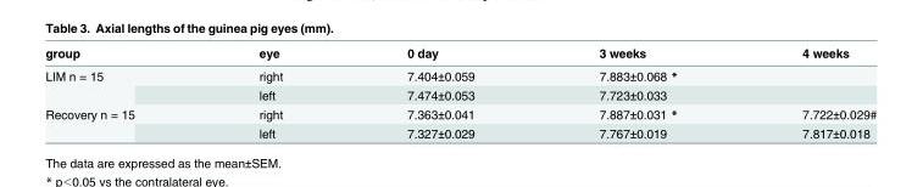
<table><thead><tr><td>group</td><td>eye</td><td>0 day</td><td>3 weeks</td><td>4 weeks</td></tr></thead><tbody><tr><td rowspan="2">LIM n = 15</td><td>right</td><td>7.404±0.059</td><td>7.883±0.068 *</td><td></td></tr><tr><td>left</td><td>7.474±0.053</td><td>7.723±0.033</td><td></td></tr><tr><td rowspan="2">Recovery n = 15</td><td>right</td><td>7.363±0.041</td><td>7.887±0.031 *</td><td>7.722±0.029#</td></tr><tr><td>left</td><td>7.327±0.029</td><td>7.767±0.019</td><td>7.817±0.018</td></tr></tbody></table>